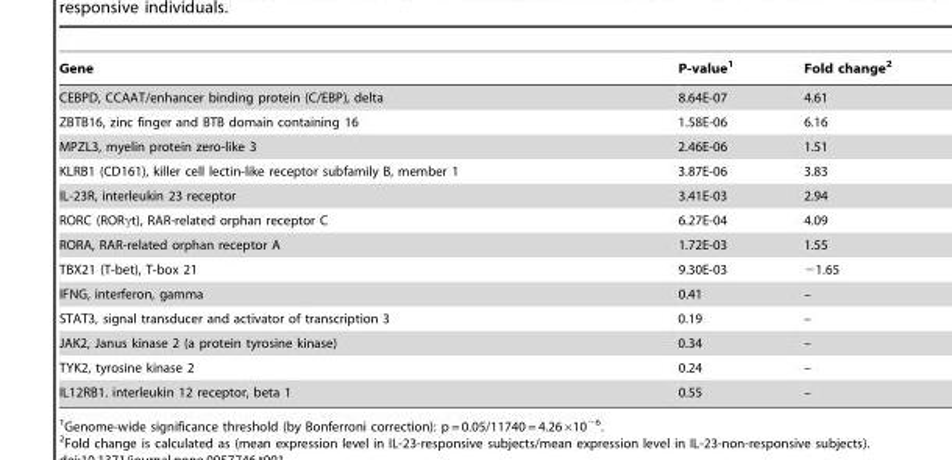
<table><thead><tr><td>Gene</td><td>P-value<sup>1</sup></td><td>Fold change<sup>2</sup></td></tr></thead><tbody><tr><td>CEBPD, CCAAT/enhancer binding protein (C/EBP), delta</td><td>8.64E-07</td><td>4.61</td></tr><tr><td>ZBTB16, zinc finger and BTB domain containing 16</td><td>1.58E-06</td><td>6.16</td></tr><tr><td>MPZL3, myelin protein zero-like 3</td><td>2.46E-06</td><td>1.51</td></tr><tr><td>KLRB1 (CD161), killer cell lectin-like receptor subfamily B, member 1</td><td>3.87E-06</td><td>3.83</td></tr><tr><td>IL-23R, interleukin 23 receptor</td><td>3.41E-03</td><td>2.94</td></tr><tr><td>RORC (RORγt), RAR-related orphan receptor C</td><td>6.27E-04</td><td>4.09</td></tr><tr><td>RORA, RAR-related orphan receptor A</td><td>1.72E-03</td><td>1.55</td></tr><tr><td>TBX21 (T-bet), T-box 21</td><td>9.30E-03</td><td>−1.65</td></tr><tr><td>IFNG, interferon, gamma</td><td>0.41</td><td>–</td></tr><tr><td>STAT3, signal transducer and activator of transcription 3</td><td>0.19</td><td>–</td></tr><tr><td>JAK2, Janus kinase 2 (a protein tyrosine kinase)</td><td>0.34</td><td>–</td></tr><tr><td>TYK2, tyrosine kinase 2</td><td>0.24</td><td>–</td></tr><tr><td>IL12RB1. interleukin 12 receptor, beta 1</td><td>0.55</td><td>–</td></tr></tbody></table>